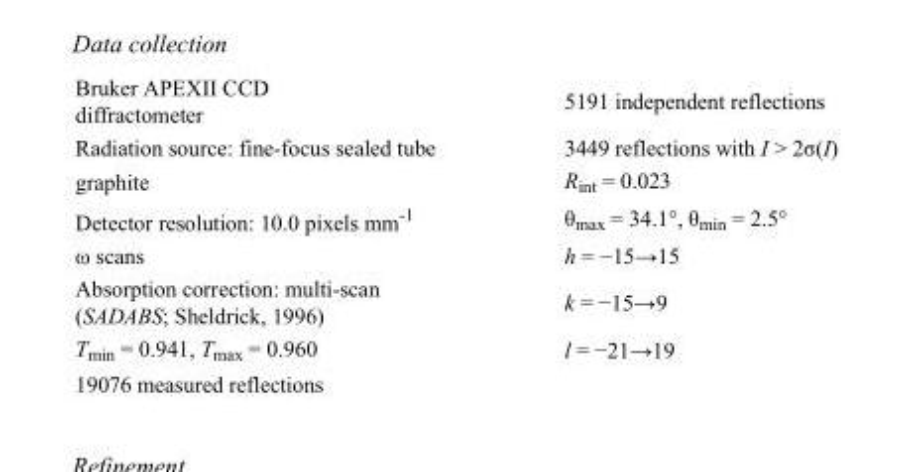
<table><tbody><tr><td>Bruker APEXII CCD diffractometer</td><td>5191 independent reflections</td></tr><tr><td>Radiation source: fine-focus sealed tube</td><td>3449 reflections with I &gt; 2σ(I)</td></tr><tr><td>graphite</td><td>R<sub>int</sub> = 0.023</td></tr><tr><td>Detector resolution: 10.0 pixels mm<sup>-1</sup></td><td>θ<sub>max</sub> = 34.1°, θ<sub>min</sub> = 2.5°</td></tr><tr><td>ω scans</td><td>h = −15→15</td></tr><tr><td>Absorption correction: multi-scan (SADABS; Sheldrick, 1996)</td><td>k = −15→9</td></tr><tr><td>T<sub>min</sub> = 0.941, T<sub>max</sub> = 0.960</td><td>l = −21→19</td></tr><tr><td>19076 measured reflections</td><td></td></tr></tbody></table>